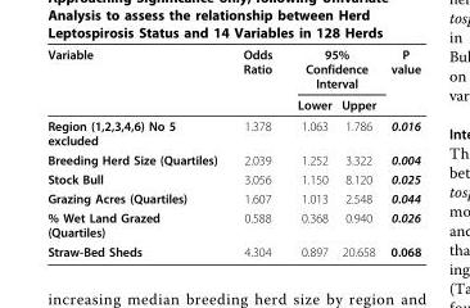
<table><thead><tr><td rowspan="2">Variable</td><td rowspan="2">Odds Ratio</td><td colspan="2">95% Confidence Interval</td><td rowspan="2">P value</td></tr><tr><td>Lower</td><td>Upper</td></tr></thead><tbody><tr><td>Region (1,2,3,4,6) No 5 excluded</td><td>1.378</td><td>1.063</td><td>1.786</td><td>0.016</td></tr><tr><td>Breeding Herd Size (Quartiles)</td><td>2.039</td><td>1.252</td><td>3.322</td><td>0.004</td></tr><tr><td>Stock Bull</td><td>3.056</td><td>1.150</td><td>8.120</td><td>0.025</td></tr><tr><td>Grazing Acres (Quartiles)</td><td>1.607</td><td>1.013</td><td>2.548</td><td>0.044</td></tr><tr><td>% Wet Land Grazed (Quartiles)</td><td>0.588</td><td>0.368</td><td>0.940</td><td>0.026</td></tr><tr><td>Straw-Bed Sheds</td><td>4.304</td><td>0.897</td><td>20.658</td><td>0.068</td></tr></tbody></table>